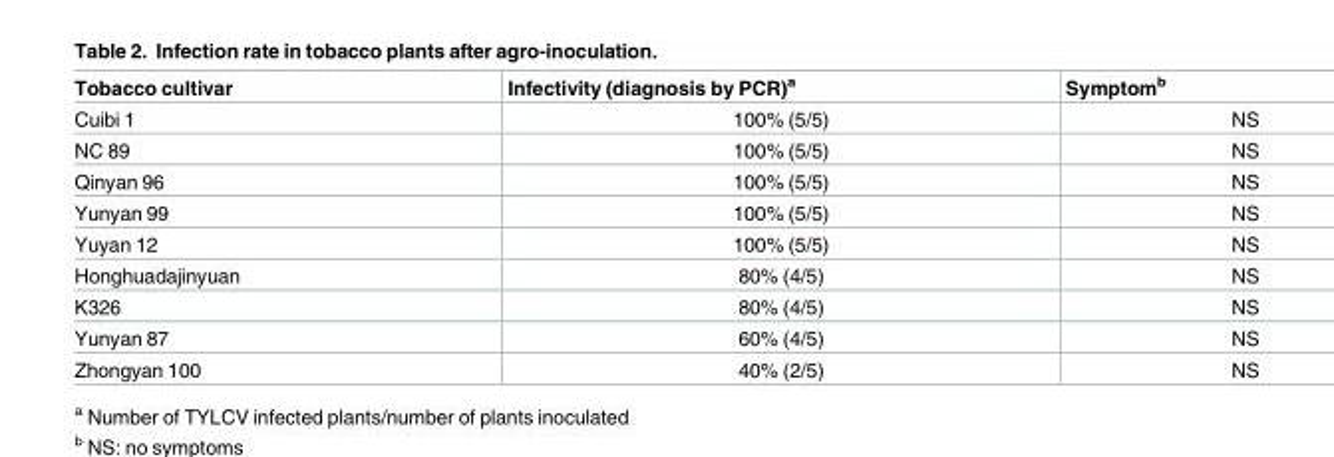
<table><thead><tr><td>Tobacco cultivar</td><td>Infectivity (diagnosis by PCR)<sup>a</sup></td><td>Symptom<sup>b</sup></td></tr></thead><tbody><tr><td>Cuibi 1</td><td>100% (5/5)</td><td>NS</td></tr><tr><td>NC 89</td><td>100% (5/5)</td><td>NS</td></tr><tr><td>Qinyan 96</td><td>100% (5/5)</td><td>NS</td></tr><tr><td>Yunyan 99</td><td>100% (5/5)</td><td>NS</td></tr><tr><td>Yuyan 12</td><td>100% (5/5)</td><td>NS</td></tr><tr><td>Honghuadajinyuan</td><td>80% (4/5)</td><td>NS</td></tr><tr><td>K326</td><td>80% (4/5)</td><td>NS</td></tr><tr><td>Yunyan 87</td><td>60% (4/5)</td><td>NS</td></tr><tr><td>Zhongyan 100</td><td>40% (2/5)</td><td>NS</td></tr></tbody></table>